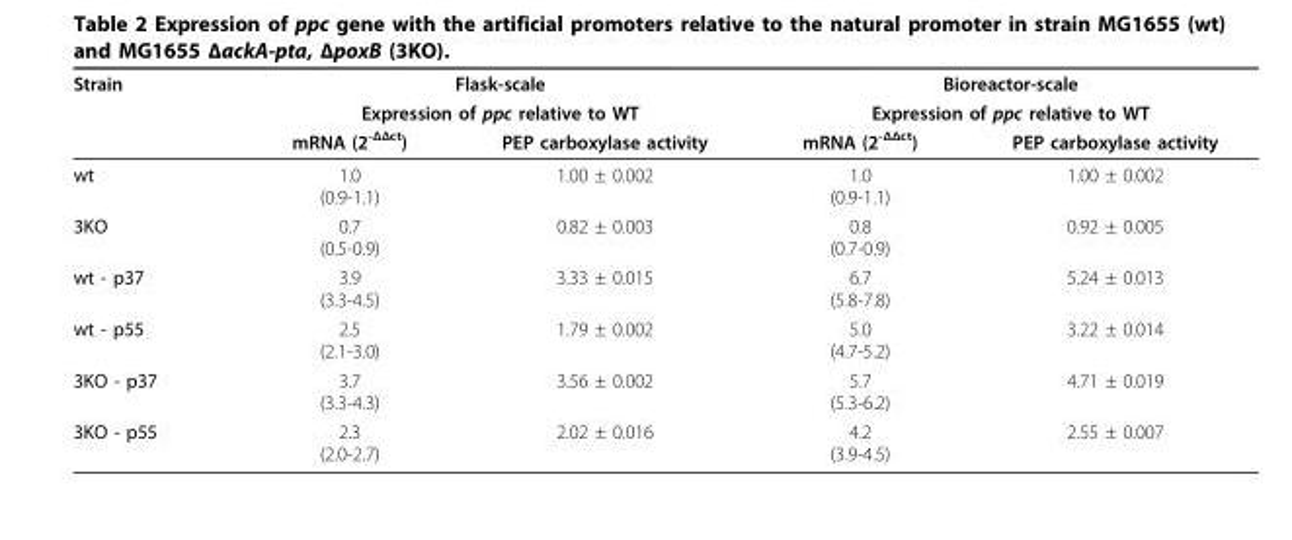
<table><thead><tr><td rowspan="3">Strain</td><td rowspan="2" colspan="2">Flask-scale Expression of ppc relative to WT</td><td rowspan="2" colspan="2">Bioreactor-scale Expression of ppc relative to WT</td></tr><tr></tr><tr><td>mRNA (2<sup>-ΔΔct</sup>)</td><td>PEP carboxylase activity</td><td>mRNA (2<sup>-ΔΔct</sup>)</td><td>PEP carboxylase activity</td></tr></thead><tbody><tr><td>wt</td><td>1.0 (0.9-1.1)</td><td>1.00 ± 0.002</td><td>1.0 (0.9-1.1)</td><td>1.00 ± 0.002</td></tr><tr><td>3KO</td><td>0.7 (0.5-0.9)</td><td>0.82 ± 0.003</td><td>0.8 (0.7-0.9)</td><td>0.92 ± 0.005</td></tr><tr><td>wt - p37</td><td>3.9 (3.3-4.5)</td><td>3.33 ± 0.015</td><td>6.7 (5.8-7.8)</td><td>5.24 ± 0.013</td></tr><tr><td>wt - p55</td><td>2.5 (2.1-3.0)</td><td>1.79 ± 0.002</td><td>5.0 (4.7-5.2)</td><td>3.22 ± 0.014</td></tr><tr><td>3KO - p37</td><td>3.7 (3.3-4.3)</td><td>3.56 ± 0.002</td><td>5.7 (5.3-6.2)</td><td>4.71 ± 0.019</td></tr><tr><td>3KO - p55</td><td>2.3 (2.0-2.7)</td><td>2.02 ± 0.016</td><td>4.2 (3.9-4.5)</td><td>2.55 ± 0.007</td></tr></tbody></table>